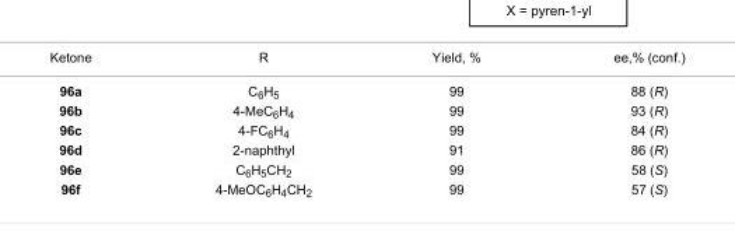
<table><tbody><tr><td>Ketone</td><td>R</td><td>Yield, %</td><td>ee,% (conf.)</td></tr><tr><td>96a</td><td>C<sub>6</sub>H<sub>5</sub></td><td>99</td><td>88 (R)</td></tr><tr><td>96b</td><td>4-MeC<sub>6</sub>H<sub>4</sub></td><td>99</td><td>93 (R)</td></tr><tr><td>96c</td><td>4-FC<sub>6</sub>H<sub>4</sub></td><td>99</td><td>84 (R)</td></tr><tr><td>96d</td><td>2-naphthyl</td><td>91</td><td>86 (R)</td></tr><tr><td>96e</td><td>C<sub>6</sub>H<sub>5</sub>CH<sub>2</sub></td><td>99</td><td>58 (S)</td></tr><tr><td>96f</td><td>4-MeOC<sub>6</sub>H<sub>4</sub>CH<sub>2</sub></td><td>99</td><td>57 (S)</td></tr></tbody></table>